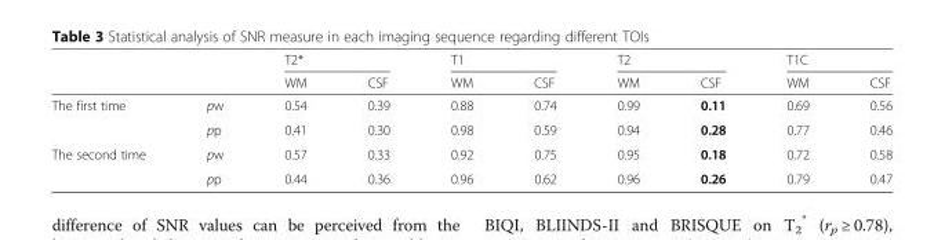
<table><thead><tr><td rowspan="2"></td><td rowspan="2"></td><td colspan="2">T2*</td><td colspan="2">T1</td><td colspan="2">T2</td><td colspan="2">T1C</td></tr><tr><td>WM</td><td>CSF</td><td>WM</td><td>CSF</td><td>WM</td><td>CSF</td><td>WM</td><td>CSF</td></tr></thead><tbody><tr><td rowspan="2">The first time</td><td>pw</td><td>0.54</td><td>0.39</td><td>0.88</td><td>0.74</td><td>0.99</td><td>0.11</td><td>0.69</td><td>0.56</td></tr><tr><td>pp</td><td>0.41</td><td>0.30</td><td>0.98</td><td>0.59</td><td>0.94</td><td>0.28</td><td>0.77</td><td>0.46</td></tr><tr><td rowspan="2">The second time</td><td>pw</td><td>0.57</td><td>0.33</td><td>0.92</td><td>0.75</td><td>0.95</td><td>0.18</td><td>0.72</td><td>0.58</td></tr><tr><td>pp</td><td>0.44</td><td>0.36</td><td>0.96</td><td>0.62</td><td>0.96</td><td>0.26</td><td>0.79</td><td>0.47</td></tr></tbody></table>